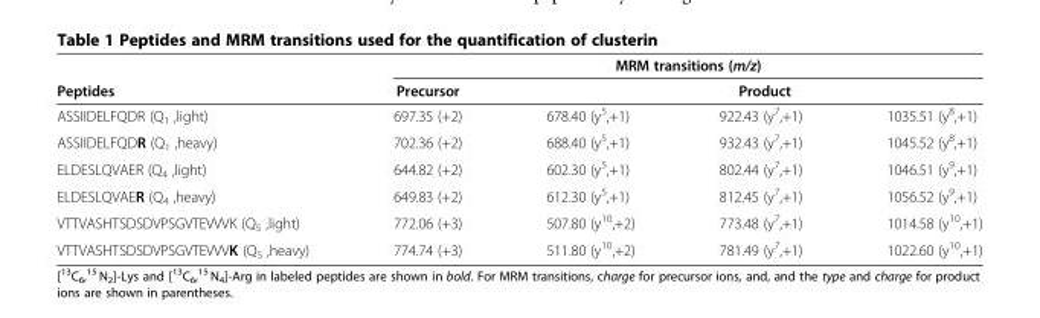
<table><thead><tr><td rowspan="2">Peptides</td><td colspan="4">MRM transitions (m/z)</td></tr><tr><td>Precursor</td><td></td><td>Product</td><td></td></tr></thead><tbody><tr><td>ASSIIDELFQDR (Q<sub>1</sub> ,light)</td><td>697.35 (+2)</td><td>678.40 (y<sup>5</sup>,+1)</td><td>922.43 (y<sup>7</sup>,+1)</td><td>1035.51 (y<sup>8</sup>,+1)</td></tr><tr><td>ASSIIDELFQDR (Q<sub>1</sub> ,heavy)</td><td>702.36 (+2)</td><td>688.40 (y<sup>5</sup>,+1)</td><td>932.43 (y<sup>7</sup>,+1)</td><td>1045.52 (y<sup>8</sup>,+1)</td></tr><tr><td>ELDESLQVAER (Q<sub>4</sub> ,light)</td><td>644.82 (+2)</td><td>602.30 (y<sup>5</sup>,+1)</td><td>802.44 (y<sup>7</sup>,+1)</td><td>1046.51 (y<sup>9</sup>,+1)</td></tr><tr><td>ELDESLQVAER (Q<sub>4</sub> ,heavy)</td><td>649.83 (+2)</td><td>612.30 (y<sup>5</sup>,+1)</td><td>812.45 (y<sup>7</sup>,+1)</td><td>1056.52 (y<sup>9</sup>,+1)</td></tr><tr><td>VTTVASHTSDSDVPSGVTEVVVK (Q<sub>5</sub> ,light)</td><td>772.06 (+3)</td><td>507.80 (y<sup>10</sup>,+2)</td><td>773.48 (y<sup>7</sup>,+1)</td><td>1014.58 (y<sup>10</sup>,+1)</td></tr><tr><td>VTTVASHTSDSDVPSGVTEVVVK (Q<sub>5</sub> ,heavy)</td><td>774.74 (+3)</td><td>511.80 (y<sup>10</sup>,+2)</td><td>781.49 (y<sup>7</sup>,+1)</td><td>1022.60 (y<sup>10</sup>,+1)</td></tr></tbody></table>